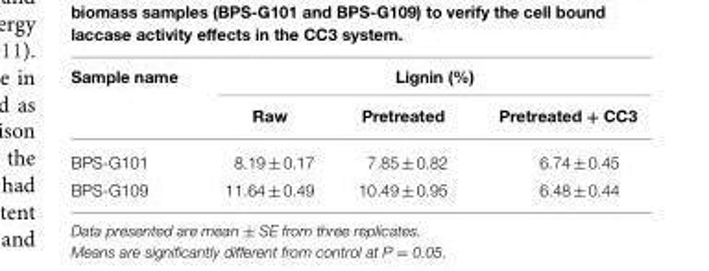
<table><thead><tr><td rowspan="2">Sample name</td><td colspan="3">Lignin (%)</td></tr><tr><td>Raw</td><td>Pretreated</td><td>Pretreated + CC3</td></tr></thead><tbody><tr><td>BPS-G101</td><td>8.19 ± 0.17</td><td>7.85 ± 0.82</td><td>6.74 ± 0.45</td></tr><tr><td>BPS-G109</td><td>11.64 ± 0.49</td><td>10.49 ± 0.95</td><td>6.48 ± 0.44</td></tr></tbody></table>